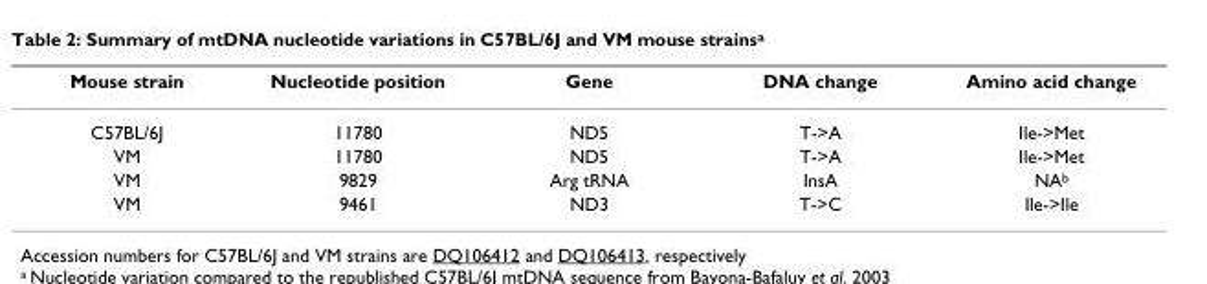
<table><thead><tr><td>Mouse strain</td><td>Nucleotide position</td><td>Gene</td><td>DNA change</td><td>Amino acid change</td></tr></thead><tbody><tr><td>C57BL/6J</td><td>11780</td><td>ND5</td><td>T-&gt;A</td><td>Ile-&gt;Met</td></tr><tr><td>VM</td><td>11780</td><td>ND5</td><td>T-&gt;A</td><td>Ile-&gt;Met</td></tr><tr><td>VM</td><td>9829</td><td>Arg tRNA</td><td>InsA</td><td>NAb</td></tr><tr><td>VM</td><td>9461</td><td>ND3</td><td>T-&gt;C</td><td>Ile-&gt;Ile</td></tr></tbody></table>